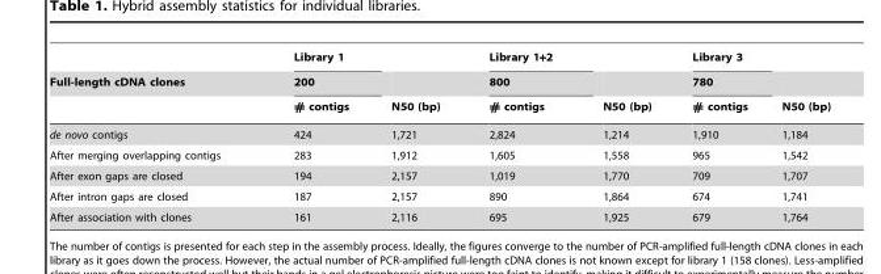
<table><thead><tr><td rowspan="3">Full-length cDNA clones</td><td rowspan="3">Library 1 200 # contigs</td><td rowspan="3">N50 (bp)</td><td rowspan="3">Library 1+2 800 # contigs</td><td rowspan="3">N50 (bp)</td><td rowspan="3">Library 3 780 # contigs</td><td rowspan="3">N50 (bp)</td></tr><tr></tr><tr></tr></thead><tbody><tr><td>de novo contigs</td><td>424</td><td>1,721</td><td>2,824</td><td>1,214</td><td>1,910</td><td>1,184</td></tr><tr><td>After merging overlapping contigs</td><td>283</td><td>1,912</td><td>1,605</td><td>1,558</td><td>965</td><td>1,542</td></tr><tr><td>After exon gaps are closed</td><td>194</td><td>2,157</td><td>1,019</td><td>1,770</td><td>709</td><td>1,707</td></tr><tr><td>After intron gaps are closed</td><td>187</td><td>2,157</td><td>890</td><td>1,864</td><td>674</td><td>1,741</td></tr><tr><td>After association with clones</td><td>161</td><td>2,116</td><td>695</td><td>1,925</td><td>679</td><td>1,764</td></tr></tbody></table>